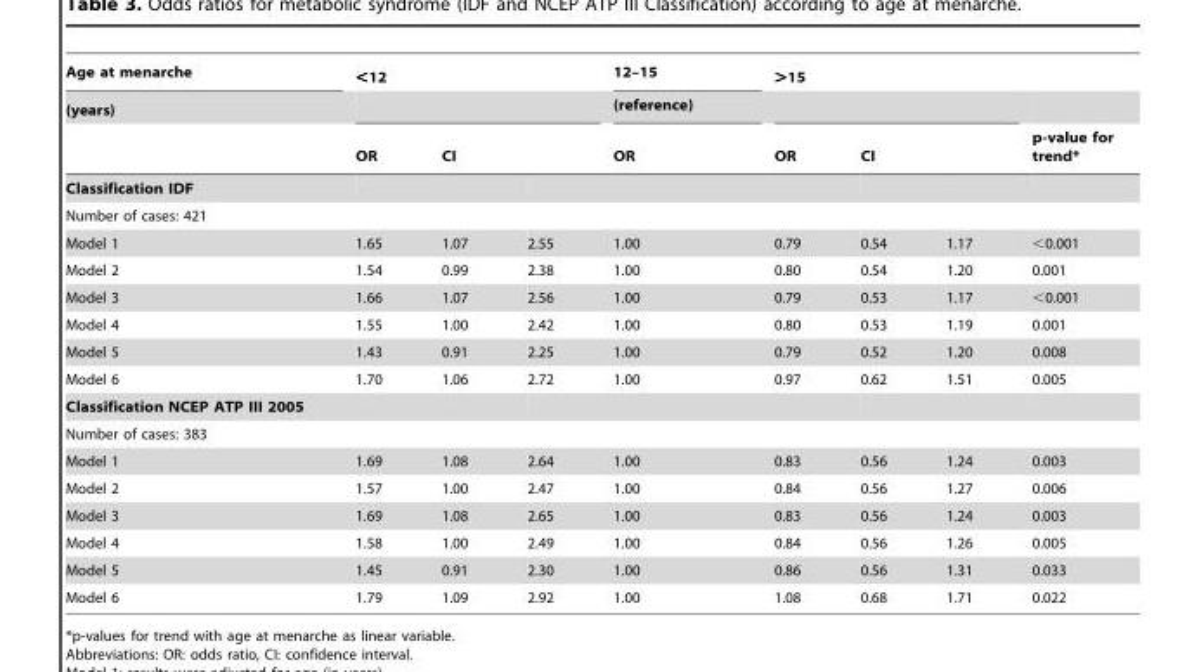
<table><thead><tr><td rowspan="3">Age at menarche (years)</td><td colspan="3">&lt;12</td><td rowspan="3">12–15 (reference) OR</td><td colspan="3">&gt;15</td><td rowspan="3">p-value for trend*</td></tr><tr><td rowspan="2">OR</td><td></td><td></td><td rowspan="2">OR</td><td></td><td></td></tr><tr><td colspan="2">CI</td><td colspan="2">CI</td></tr></thead><tbody><tr><td colspan="9">Classification IDF</td></tr><tr><td colspan="9">Number of cases: 421</td></tr><tr><td>Model 1</td><td>1.65</td><td>1.07</td><td>2.55</td><td>1.00</td><td>0.79</td><td>0.54</td><td>1.17</td><td>&lt;0.001</td></tr><tr><td>Model 2</td><td>1.54</td><td>0.99</td><td>2.38</td><td>1.00</td><td>0.80</td><td>0.54</td><td>1.20</td><td>0.001</td></tr><tr><td>Model 3</td><td>1.66</td><td>1.07</td><td>2.56</td><td>1.00</td><td>0.79</td><td>0.53</td><td>1.17</td><td>&lt;0.001</td></tr><tr><td>Model 4</td><td>1.55</td><td>1.00</td><td>2.42</td><td>1.00</td><td>0.80</td><td>0.53</td><td>1.19</td><td>0.001</td></tr><tr><td>Model 5</td><td>1.43</td><td>0.91</td><td>2.25</td><td>1.00</td><td>0.79</td><td>0.52</td><td>1.20</td><td>0.008</td></tr><tr><td>Model 6</td><td>1.70</td><td>1.06</td><td>2.72</td><td>1.00</td><td>0.97</td><td>0.62</td><td>1.51</td><td>0.005</td></tr><tr><td colspan="9">Classification NCEP ATP III 2005</td></tr><tr><td colspan="9">Number of cases: 383</td></tr><tr><td>Model 1</td><td>1.69</td><td>1.08</td><td>2.64</td><td>1.00</td><td>0.83</td><td>0.56</td><td>1.24</td><td>0.003</td></tr><tr><td>Model 2</td><td>1.57</td><td>1.00</td><td>2.47</td><td>1.00</td><td>0.84</td><td>0.56</td><td>1.27</td><td>0.006</td></tr><tr><td>Model 3</td><td>1.69</td><td>1.08</td><td>2.65</td><td>1.00</td><td>0.83</td><td>0.56</td><td>1.24</td><td>0.003</td></tr><tr><td>Model 4</td><td>1.58</td><td>1.00</td><td>2.49</td><td>1.00</td><td>0.84</td><td>0.56</td><td>1.26</td><td>0.005</td></tr><tr><td>Model 5</td><td>1.45</td><td>0.91</td><td>2.30</td><td>1.00</td><td>0.86</td><td>0.56</td><td>1.31</td><td>0.033</td></tr><tr><td>Model 6</td><td>1.79</td><td>1.09</td><td>2.92</td><td>1.00</td><td>1.08</td><td>0.68</td><td>1.71</td><td>0.022</td></tr></tbody></table>